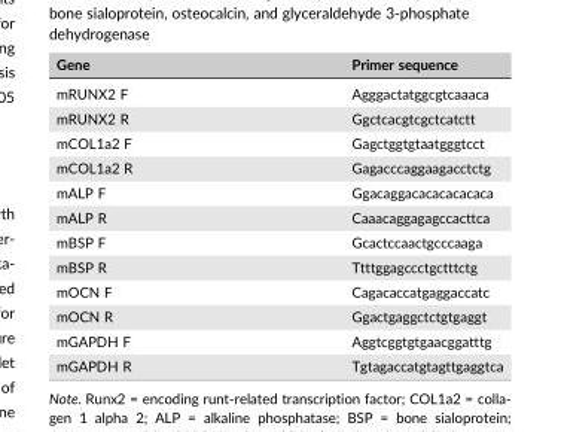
<table><thead><tr><td>Gene</td><td>Primer sequence</td></tr></thead><tbody><tr><td>mRUNX2 F</td><td>Agggactatggcgtcaaaca</td></tr><tr><td>mRUNX2 R</td><td>Ggctcacgtcgctcatctt</td></tr><tr><td>mCOL1a2 F</td><td>Gagctggtgtaatgggtcct</td></tr><tr><td>mCOL1a2 R</td><td>Gagacccaggaagacctctg</td></tr><tr><td>mALP F</td><td>Ggacaggacacacacacaca</td></tr><tr><td>mALP R</td><td>Caaacaggagagccacttca</td></tr><tr><td>mBSP F</td><td>Gcactccaactgcccaaga</td></tr><tr><td>mBSP R</td><td>Ttttggagccctgctttctg</td></tr><tr><td>mOCN F</td><td>Cagacaccatgaggaccatc</td></tr><tr><td>mOCN R</td><td>Ggactgaggctctgtgaggt</td></tr><tr><td>mGAPDH F</td><td>Aggtcggtgtgaacggatttg</td></tr><tr><td>mGAPDH R</td><td>Tgtagaccatgtagttgaggtca</td></tr></tbody></table>